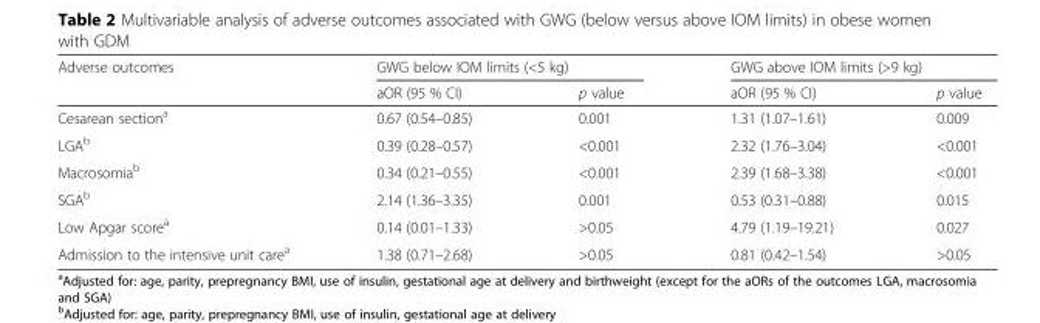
<table><thead><tr><td rowspan="2">Adverse outcomes</td><td colspan="2">GWG below IOM limits (&lt;5 kg)</td><td colspan="2">GWG above IOM limits (&gt;9 kg)</td></tr><tr><td>aOR (95 % CI)</td><td>p value</td><td>aOR (95 % CI)</td><td>p value</td></tr></thead><tbody><tr><td>Cesarean section<sup>a</sup></td><td>0.67 (0.54–0.85)</td><td>0.001</td><td>1.31 (1.07–1.61)</td><td>0.009</td></tr><tr><td>LGA<sup>b</sup></td><td>0.39 (0.28–0.57)</td><td>&lt;0.001</td><td>2.32 (1.76–3.04)</td><td>&lt;0.001</td></tr><tr><td>Macrosomia<sup>b</sup></td><td>0.34 (0.21–0.55)</td><td>&lt;0.001</td><td>2.39 (1.68–3.38)</td><td>&lt;0.001</td></tr><tr><td>SGA<sup>b</sup></td><td>2.14 (1.36–3.35)</td><td>0.001</td><td>0.53 (0.31–0.88)</td><td>0.015</td></tr><tr><td>Low Apgar score<sup>a</sup></td><td>0.14 (0.01–1.33)</td><td>&gt;0.05</td><td>4.79 (1.19–19.21)</td><td>0.027</td></tr><tr><td>Admission to the intensive unit care<sup>a</sup></td><td>1.38 (0.71–2.68)</td><td>&gt;0.05</td><td>0.81 (0.42–1.54)</td><td>&gt;0.05</td></tr></tbody></table>